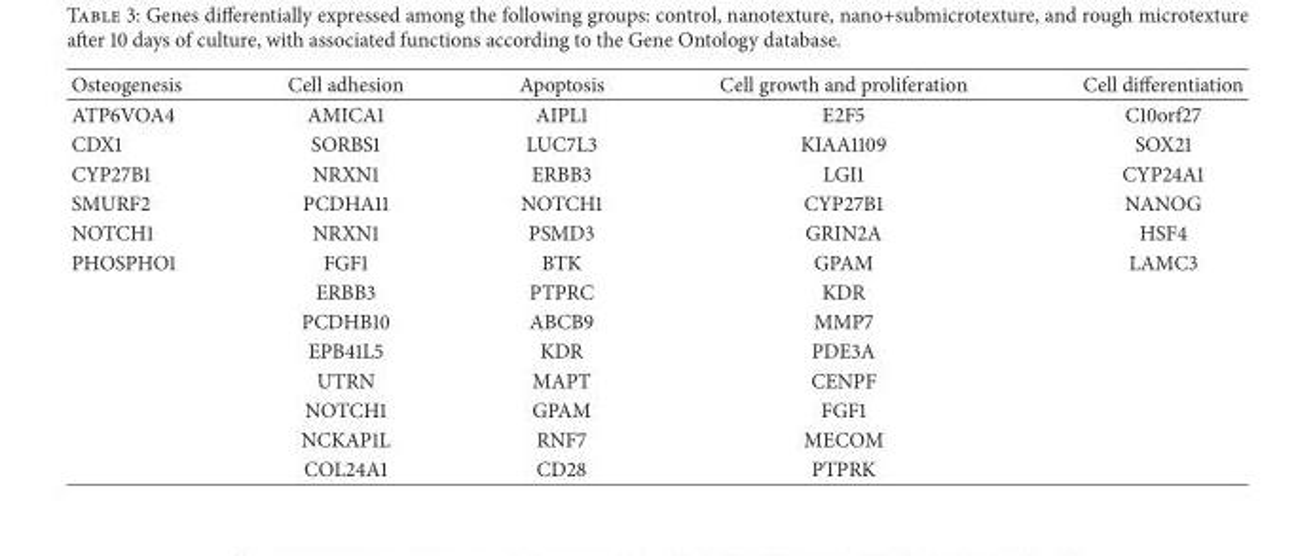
<table><thead><tr><td>Osteogenesis</td><td>Cell adhesion</td><td>Apoptosis</td><td>Cell growth and proliferation</td><td>Cell differentiation</td></tr></thead><tbody><tr><td>ATP6VOA4</td><td>AMICA1</td><td>AIPL1</td><td>E2F5</td><td>C10orf27</td></tr><tr><td>CDX1</td><td>SORBS1</td><td>LUC7L3</td><td>KIAA1109</td><td>SOX21</td></tr><tr><td>CYP27B1</td><td>NRXN1</td><td>ERBB3</td><td>LGI1</td><td>CYP24A1</td></tr><tr><td>SMURF2</td><td>PCDHA11</td><td>NOTCH1</td><td>CYP27B1</td><td>NANOG</td></tr><tr><td>NOTCH1</td><td>NRXN1</td><td>PSMD3</td><td>GRIN2A</td><td>HSF4</td></tr><tr><td rowspan="8">PHOSPHO1</td><td>FGF1</td><td>BTK</td><td>GPAM</td><td>LAMC3</td></tr><tr><td>ERBB3</td><td>PTPRC</td><td>KDR</td><td></td></tr><tr><td>PCDHB10</td><td>ABCB9</td><td>MMP7</td><td></td></tr><tr><td>EPB41L5</td><td>KDR</td><td>PDE3A</td><td></td></tr><tr><td>UTRN</td><td>MAPT</td><td>CENPF</td><td></td></tr><tr><td>NOTCH1</td><td>GPAM</td><td>FGF1</td><td></td></tr><tr><td>NCKAP1L</td><td>RNF7</td><td>MECOM</td><td></td></tr><tr><td>COL24A1</td><td>CD28</td><td>PTPRK</td><td></td></tr></tbody></table>